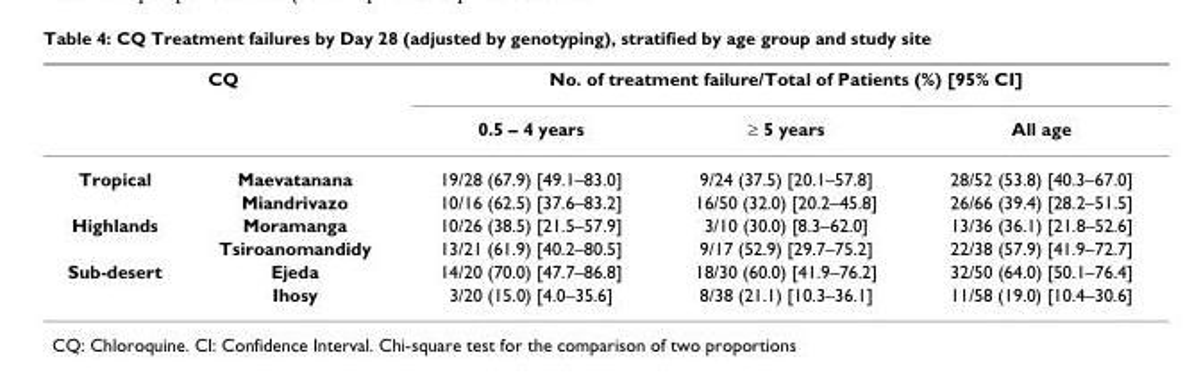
<table><thead><tr><td colspan="2">CQ</td><td colspan="3">No. of treatment failure/Total of Patients (%) [95% CI]</td></tr><tr><td></td><td></td><td>0.5 – 4 years</td><td>≥ 5 years</td><td>All age</td></tr></thead><tbody><tr><td rowspan="2">Tropical</td><td>Maevatanana</td><td>19/28 (67.9) [49.1–83.0]</td><td>9/24 (37.5) [20.1–57.8]</td><td>28/52 (53.8) [40.3–67.0]</td></tr><tr><td>Miandrivazo</td><td>10/16 (62.5) [37.6–83.2]</td><td>16/50 (32.0) [20.2–45.8]</td><td>26/66 (39.4) [28.2–51.5]</td></tr><tr><td rowspan="2">Highlands</td><td>Moramanga</td><td>10/26 (38.5) [21.5–57.9]</td><td>3/10 (30.0) [8.3–62.0]</td><td>13/36 (36.1) [21.8–52.6]</td></tr><tr><td>Tsiroanomandidy</td><td>13/21 (61.9) [40.2–80.5]</td><td>9/17 (52.9) [29.7–75.2]</td><td>22/38 (57.9) [41.9–72.7]</td></tr><tr><td rowspan="2">Sub-desert</td><td>Ejeda</td><td>14/20 (70.0) [47.7–86.8]</td><td>18/30 (60.0) [41.9–76.2]</td><td>32/50 (64.0) [50.1–76.4]</td></tr><tr><td>Ihosy</td><td>3/20 (15.0) [4.0–35.6]</td><td>8/38 (21.1) [10.3–36.1]</td><td>11/58 (19.0) [10.4–30.6]</td></tr></tbody></table>